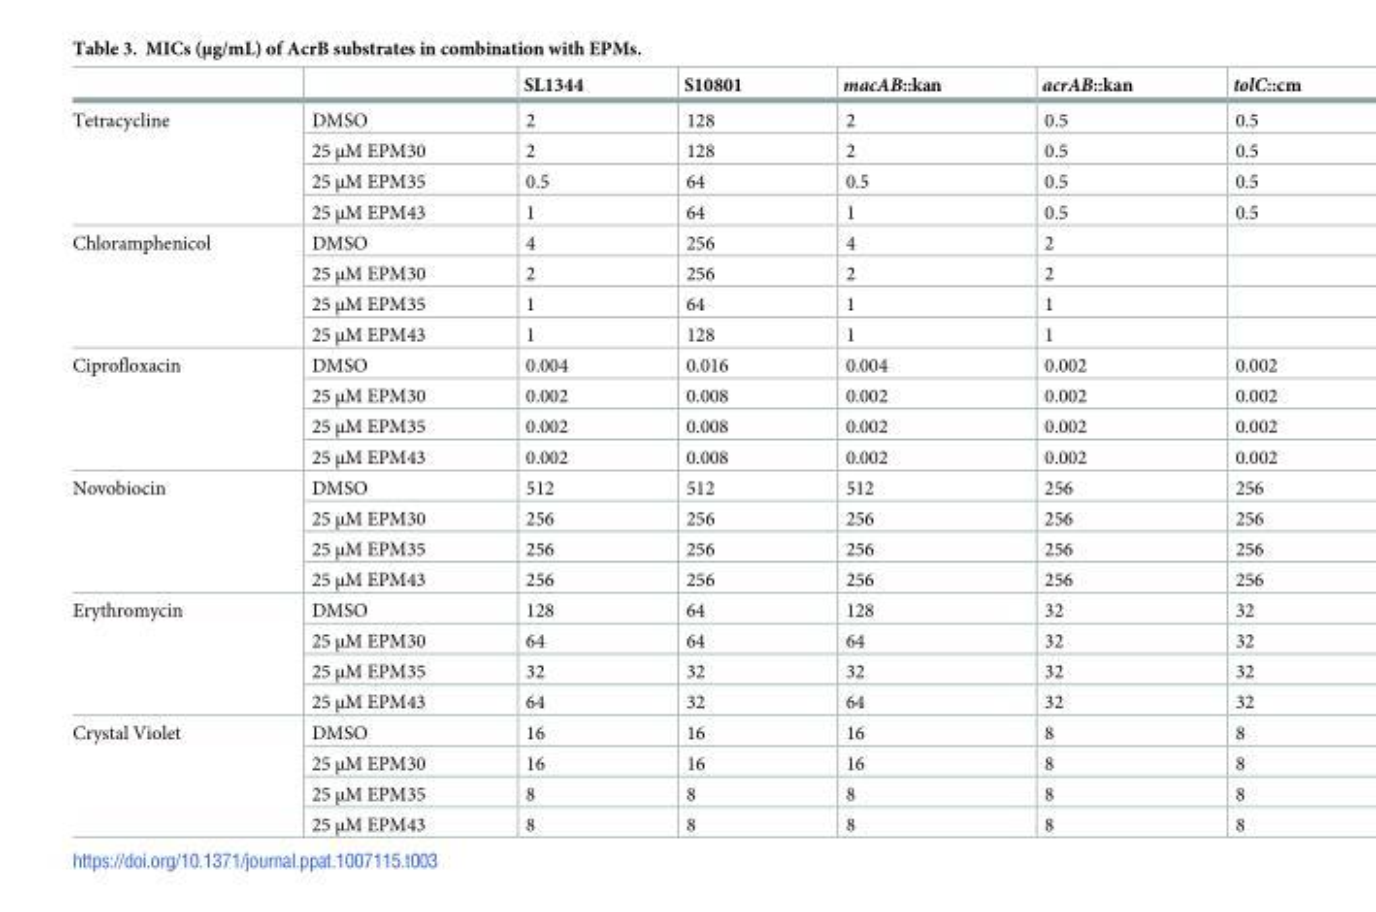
<table><thead><tr><td></td><td></td><td>SL1344</td><td>S10801</td><td>macAB::kan</td><td>acrAB::kan</td><td>tolC::cm</td></tr></thead><tbody><tr><td rowspan="4">Tetracycline</td><td>DMSO</td><td>2</td><td>128</td><td>2</td><td>0.5</td><td>0.5</td></tr><tr><td>25 μM EPM30</td><td>2</td><td>128</td><td>2</td><td>0.5</td><td>0.5</td></tr><tr><td>25 μM EPM35</td><td>0.5</td><td>64</td><td>0.5</td><td>0.5</td><td>0.5</td></tr><tr><td>25 μM EPM43</td><td>1</td><td>64</td><td>1</td><td>0.5</td><td>0.5</td></tr><tr><td rowspan="4">Chloramphenicol</td><td>DMSO</td><td>4</td><td>256</td><td>4</td><td>2</td><td></td></tr><tr><td>25 μM EPM30</td><td>2</td><td>256</td><td>2</td><td>2</td><td></td></tr><tr><td>25 μM EPM35</td><td>1</td><td>64</td><td>1</td><td>1</td><td></td></tr><tr><td>25 μM EPM43</td><td>1</td><td>128</td><td>1</td><td>1</td><td></td></tr><tr><td rowspan="4">Ciprofloxacin</td><td>DMSO</td><td>0.004</td><td>0.016</td><td>0.004</td><td>0.002</td><td>0.002</td></tr><tr><td>25 μM EPM30</td><td>0.002</td><td>0.008</td><td>0.002</td><td>0.002</td><td>0.002</td></tr><tr><td>25 μM EPM35</td><td>0.002</td><td>0.008</td><td>0.002</td><td>0.002</td><td>0.002</td></tr><tr><td>25 μM EPM43</td><td>0.002</td><td>0.008</td><td>0.002</td><td>0.002</td><td>0.002</td></tr><tr><td rowspan="4">Novobiocin</td><td>DMSO</td><td>512</td><td>512</td><td>512</td><td>256</td><td>256</td></tr><tr><td>25 μM EPM30</td><td>256</td><td>256</td><td>256</td><td>256</td><td>256</td></tr><tr><td>25 μM EPM35</td><td>256</td><td>256</td><td>256</td><td>256</td><td>256</td></tr><tr><td>25 μM EPM43</td><td>256</td><td>256</td><td>256</td><td>256</td><td>256</td></tr><tr><td rowspan="4">Erythromycin</td><td>DMSO</td><td>128</td><td>64</td><td>128</td><td>32</td><td>32</td></tr><tr><td>25 μM EPM30</td><td>64</td><td>64</td><td>64</td><td>32</td><td>32</td></tr><tr><td>25 μM EPM35</td><td>32</td><td>32</td><td>32</td><td>32</td><td>32</td></tr><tr><td>25 μM EPM43</td><td>64</td><td>32</td><td>64</td><td>32</td><td>32</td></tr><tr><td rowspan="4">Crystal Violet</td><td>DMSO</td><td>16</td><td>16</td><td>16</td><td>8</td><td>8</td></tr><tr><td>25 μM EPM30</td><td>16</td><td>16</td><td>16</td><td>8</td><td>8</td></tr><tr><td>25 μM EPM35</td><td>8</td><td>8</td><td>8</td><td>8</td><td>8</td></tr><tr><td>25 μM EPM43</td><td>8</td><td>8</td><td>8</td><td>8</td><td>8</td></tr></tbody></table>